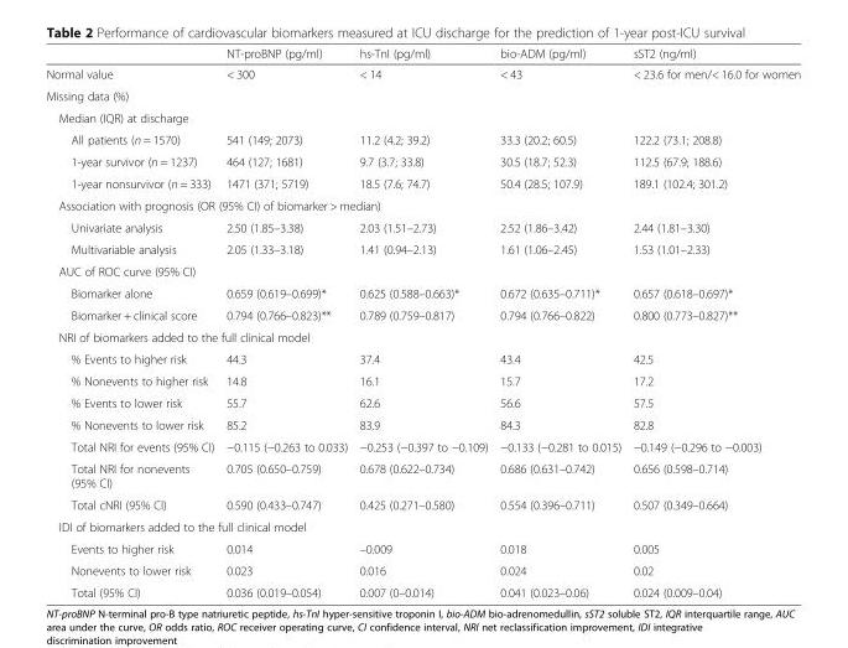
<table><thead><tr><td></td><td>NT-proBNP (pg/ml)</td><td>hs-TnI (pg/ml)</td><td>bio-ADM (pg/ml)</td><td>sST2 (ng/ml)</td></tr></thead><tbody><tr><td>Normal value</td><td>&lt; 300</td><td>&lt; 14</td><td>&lt; 43</td><td>&lt; 23.6 for men/&lt; 16.0 for women</td></tr><tr><td colspan="5">Missing data (%)</td></tr><tr><td colspan="5">Median (IQR) at discharge</td></tr><tr><td>All patients (n = 1570)</td><td>541 (149; 2073)</td><td>11.2 (4.2; 39.2)</td><td>33.3 (20.2; 60.5)</td><td>122.2 (73.1; 208.8)</td></tr><tr><td>1-year survivor (n = 1237)</td><td>464 (127; 1681)</td><td>9.7 (3.7; 33.8)</td><td>30.5 (18.7; 52.3)</td><td>112.5 (67.9; 188.6)</td></tr><tr><td>1-year nonsurvivor (n = 333)</td><td>1471 (371; 5719)</td><td>18.5 (7.6; 74.7)</td><td>50.4 (28.5; 107.9)</td><td>189.1 (102.4; 301.2)</td></tr><tr><td colspan="5">Association with prognosis (OR (95% CI) of biomarker &gt; median)</td></tr><tr><td>Univariate analysis</td><td>2.50 (1.85–3.38)</td><td>2.03 (1.51–2.73)</td><td>2.52 (1.86–3.42)</td><td>2.44 (1.81–3.30)</td></tr><tr><td>Multivariable analysis</td><td>2.05 (1.33–3.18)</td><td>1.41 (0.94–2.13)</td><td>1.61 (1.06–2.45)</td><td>1.53 (1.01–2.33)</td></tr><tr><td colspan="5">AUC of ROC curve (95% CI)</td></tr><tr><td>Biomarker alone</td><td>0.659 (0.619–0.699)*</td><td>0.625 (0.588–0.663)*</td><td>0.672 (0.635–0.711)*</td><td>0.657 (0.618–0.697)*</td></tr><tr><td>Biomarker + clinical score</td><td>0.794 (0.766–0.823)**</td><td>0.789 (0.759–0.817)</td><td>0.794 (0.766–0.822)</td><td>0.800 (0.773–0.827)**</td></tr><tr><td colspan="5">NRI of biomarkers added to the full clinical model</td></tr><tr><td>% Events to higher risk</td><td>44.3</td><td>37.4</td><td>43.4</td><td>42.5</td></tr><tr><td>% Nonevents to higher risk</td><td>14.8</td><td>16.1</td><td>15.7</td><td>17.2</td></tr><tr><td>% Events to lower risk</td><td>55.7</td><td>62.6</td><td>56.6</td><td>57.5</td></tr><tr><td>% Nonevents to lower risk</td><td>85.2</td><td>83.9</td><td>84.3</td><td>82.8</td></tr><tr><td>Total NRI for events (95% CI)</td><td>−0.115 (−0.263 to 0.033)</td><td>−0.253 (−0.397 to −0.109)</td><td>−0.133 (−0.281 to 0.015)</td><td>−0.149 (−0.296 to −0.003)</td></tr><tr><td>Total NRI for nonevents (95% CI)</td><td>0.705 (0.650–0.759)</td><td>0.678 (0.622–0.734)</td><td>0.686 (0.631–0.742)</td><td>0.656 (0.598–0.714)</td></tr><tr><td>Total cNRI (95% CI)</td><td>0.590 (0.433–0.747)</td><td>0.425 (0.271–0.580)</td><td>0.554 (0.396–0.711)</td><td>0.507 (0.349–0.664)</td></tr><tr><td colspan="5">IDI of biomarkers added to the full clinical model</td></tr><tr><td>Events to higher risk</td><td>0.014</td><td>–0.009</td><td>0.018</td><td>0.005</td></tr><tr><td>Nonevents to lower risk</td><td>0.023</td><td>0.016</td><td>0.024</td><td>0.02</td></tr><tr><td>Total (95% CI)</td><td>0.036 (0.019–0.054)</td><td>0.007 (0–0.014)</td><td>0.041 (0.023–0.06)</td><td>0.024 (0.009–0.04)</td></tr></tbody></table>